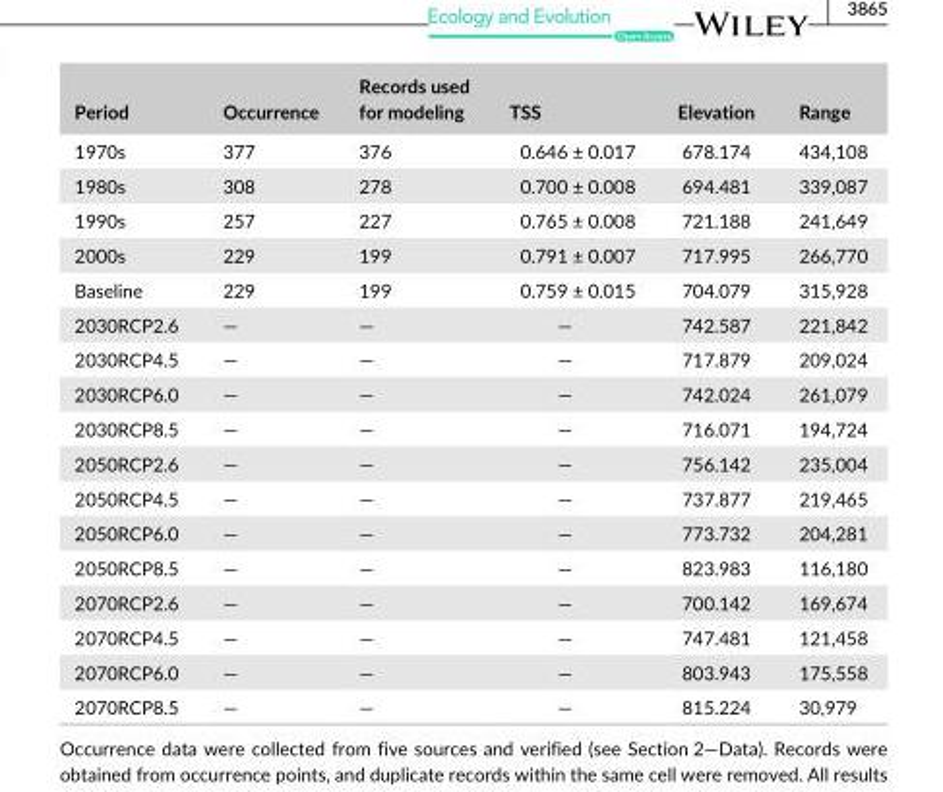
<table><thead><tr><td>Period</td><td>Occurrence</td><td>Records used for modeling</td><td>TSS</td><td>Elevation</td><td>Range</td></tr></thead><tbody><tr><td>1970s</td><td>377</td><td>376</td><td>0.646 ± 0.017</td><td>678.174</td><td>434,108</td></tr><tr><td>1980s</td><td>308</td><td>278</td><td>0.700 ± 0.008</td><td>694.481</td><td>339,087</td></tr><tr><td>1990s</td><td>257</td><td>227</td><td>0.765 ± 0.008</td><td>721.188</td><td>241,649</td></tr><tr><td>2000s</td><td>229</td><td>199</td><td>0.791 ± 0.007</td><td>717.995</td><td>266,770</td></tr><tr><td>Baseline</td><td>229</td><td>199</td><td>0.759 ± 0.015</td><td>704.079</td><td>315,928</td></tr><tr><td>2030RCP2.6</td><td>—</td><td>—</td><td>—</td><td>742.587</td><td>221,842</td></tr><tr><td>2030RCP4.5</td><td>—</td><td>—</td><td>—</td><td>717.879</td><td>209,024</td></tr><tr><td>2030RCP6.0</td><td>—</td><td>—</td><td>—</td><td>742.024</td><td>261,079</td></tr><tr><td>2030RCP8.5</td><td>—</td><td>—</td><td>—</td><td>716.071</td><td>194,724</td></tr><tr><td>2050RCP2.6</td><td>—</td><td>—</td><td>—</td><td>756.142</td><td>235,004</td></tr><tr><td>2050RCP4.5</td><td>—</td><td>—</td><td>—</td><td>737.877</td><td>219,465</td></tr><tr><td>2050RCP6.0</td><td>—</td><td>—</td><td>—</td><td>773.732</td><td>204,281</td></tr><tr><td>2050RCP8.5</td><td>—</td><td>—</td><td>—</td><td>823.983</td><td>116,180</td></tr><tr><td>2070RCP2.6</td><td>—</td><td>—</td><td>—</td><td>700.142</td><td>169,674</td></tr><tr><td>2070RCP4.5</td><td>—</td><td>—</td><td>—</td><td>747.481</td><td>121,458</td></tr><tr><td>2070RCP6.0</td><td>—</td><td>—</td><td>—</td><td>803.943</td><td>175,558</td></tr><tr><td>2070RCP8.5</td><td>—</td><td>—</td><td>—</td><td>815.224</td><td>30,979</td></tr></tbody></table>